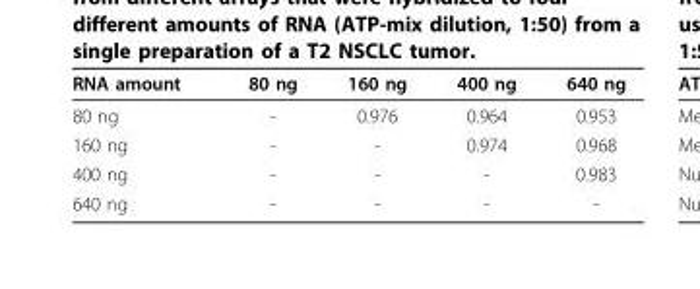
<table><thead><tr><td>RNA amount</td><td>80 ng</td><td>160 ng</td><td>400 ng</td><td>640 ng</td></tr></thead><tbody><tr><td>80 ng</td><td>-</td><td>0.976</td><td>0.964</td><td>0.953</td></tr><tr><td>160 ng</td><td>-</td><td>-</td><td>0.974</td><td>0.968</td></tr><tr><td>400 ng</td><td>-</td><td>-</td><td>-</td><td>0.983</td></tr><tr><td>640 ng</td><td>-</td><td>-</td><td>-</td><td>-</td></tr></tbody></table>